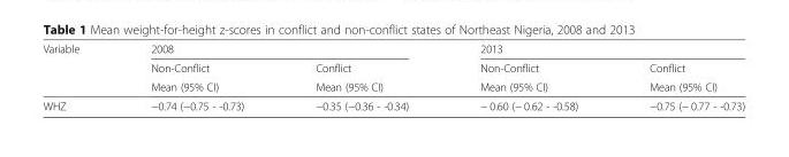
<table><thead><tr><td rowspan="3">Variable</td><td colspan="2">2008</td><td colspan="2">2013</td></tr><tr><td rowspan="2">Non-Conflict Mean (95% CI)</td><td rowspan="2">Conflict Mean (95% CI)</td><td rowspan="2">Non-Conflict Mean (95% CI)</td><td rowspan="2">Conflict Mean (95% CI)</td></tr><tr></tr></thead><tbody><tr><td>WHZ</td><td>−0.74 (−0.75 - -0.73)</td><td>−0.35 (−0.36 - -0.34)</td><td>− 0.60 (− 0.62 - -0.58)</td><td>−0.75 (− 0.77 - -0.73)</td></tr></tbody></table>